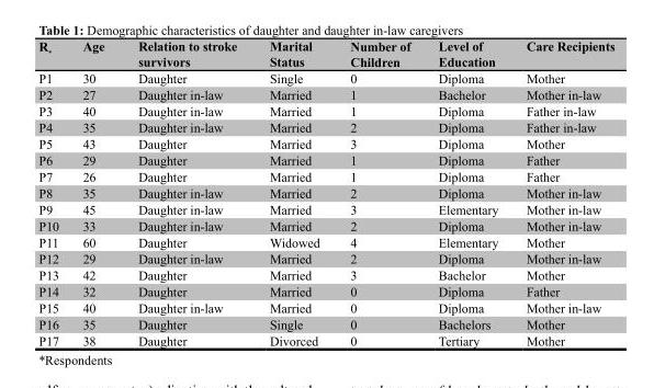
<table><thead><tr><td>R<sub>*</sub></td><td>Age</td><td>Relation to stroke survivors</td><td>Marital Status</td><td>Number of Children</td><td>Level of Education</td><td>Care Recipients</td></tr></thead><tbody><tr><td>P1</td><td>30</td><td>Daughter</td><td>Single</td><td>0</td><td>Diploma</td><td>Mother</td></tr><tr><td>P2</td><td>27</td><td>Daughter in-law</td><td>Married</td><td>1</td><td>Bachelor</td><td>Mother in-law</td></tr><tr><td>P3</td><td>40</td><td>Daughter in-law</td><td>Married</td><td>1</td><td>Diploma</td><td>Father in-law</td></tr><tr><td>P4</td><td>35</td><td>Daughter in-law</td><td>Married</td><td>2</td><td>Diploma</td><td>Father in-law</td></tr><tr><td>P5</td><td>43</td><td>Daughter</td><td>Married</td><td>3</td><td>Diploma</td><td>Mother</td></tr><tr><td>P6</td><td>29</td><td>Daughter</td><td>Married</td><td>1</td><td>Diploma</td><td>Father</td></tr><tr><td>P7</td><td>26</td><td>Daughter</td><td>Married</td><td>1</td><td>Diploma</td><td>Father</td></tr><tr><td>P8</td><td>35</td><td>Daughter in-law</td><td>Married</td><td>2</td><td>Diploma</td><td>Mother in-law</td></tr><tr><td>P9</td><td>45</td><td>Daughter in-law</td><td>Married</td><td>3</td><td>Elementary</td><td>Mother in-law</td></tr><tr><td>P10</td><td>33</td><td>Daughter in-law</td><td>Married</td><td>2</td><td>Diploma</td><td>Mother in-law</td></tr><tr><td>P11</td><td>60</td><td>Daughter</td><td>Widowed</td><td>4</td><td>Elementary</td><td>Mother</td></tr><tr><td>P12</td><td>29</td><td>Daughter in-law</td><td>Married</td><td>2</td><td>Diploma</td><td>Mother in-law</td></tr><tr><td>P13</td><td>42</td><td>Daughter</td><td>Married</td><td>3</td><td>Bachelor</td><td>Mother</td></tr><tr><td>P14</td><td>32</td><td>Daughter</td><td>Married</td><td>0</td><td>Diploma</td><td>Father</td></tr><tr><td>P15</td><td>40</td><td>Daughter in-law</td><td>Married</td><td>0</td><td>Diploma</td><td>Mother in-law</td></tr><tr><td>P16</td><td>35</td><td>Daughter</td><td>Single</td><td>0</td><td>Bachelors</td><td>Mother</td></tr><tr><td>P17</td><td>38</td><td>Daughter</td><td>Divorced</td><td>0</td><td>Tertiary</td><td>Mother</td></tr></tbody></table>